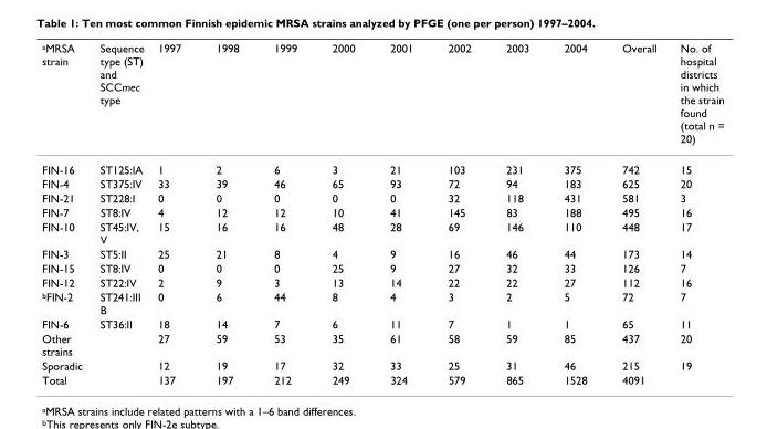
<table><thead><tr><td><sup>a</sup>MRSA strain</td><td>Sequence type (ST) and SCCmec type</td><td>1997</td><td>1998</td><td>1999</td><td>2000</td><td>2001</td><td>2002</td><td>2003</td><td>2004</td><td>Overall</td><td>No. of hospital districts in which the strain found (total n = 20)</td></tr></thead><tbody><tr><td>FIN-16</td><td>ST125:IA</td><td>1</td><td>2</td><td>6</td><td>3</td><td>21</td><td>103</td><td>231</td><td>375</td><td>742</td><td>15</td></tr><tr><td>FIN-4</td><td>ST375:IV</td><td>33</td><td>39</td><td>46</td><td>65</td><td>93</td><td>72</td><td>94</td><td>183</td><td>625</td><td>20</td></tr><tr><td>FIN-21</td><td>ST228:I</td><td>0</td><td>0</td><td>0</td><td>0</td><td>0</td><td>32</td><td>118</td><td>431</td><td>581</td><td>3</td></tr><tr><td>FIN-7</td><td>ST8:IV</td><td>4</td><td>12</td><td>12</td><td>10</td><td>41</td><td>145</td><td>83</td><td>188</td><td>495</td><td>16</td></tr><tr><td>FIN-10</td><td>ST45:IV, V</td><td>15</td><td>16</td><td>16</td><td>48</td><td>28</td><td>69</td><td>146</td><td>110</td><td>448</td><td>17</td></tr><tr><td>FIN-3</td><td>ST5:II</td><td>25</td><td>21</td><td>8</td><td>4</td><td>9</td><td>16</td><td>46</td><td>44</td><td>173</td><td>14</td></tr><tr><td>FIN-15</td><td>ST8:IV</td><td>0</td><td>0</td><td>0</td><td>25</td><td>9</td><td>27</td><td>32</td><td>33</td><td>126</td><td>7</td></tr><tr><td>FIN-12</td><td>ST22:IV</td><td>2</td><td>9</td><td>3</td><td>13</td><td>14</td><td>22</td><td>22</td><td>27</td><td>112</td><td>16</td></tr><tr><td><sup>b</sup>FIN-2</td><td>ST241:III B</td><td>0</td><td>6</td><td>44</td><td>8</td><td>4</td><td>3</td><td>2</td><td>5</td><td>72</td><td>7</td></tr><tr><td>FIN-6</td><td>ST36:II</td><td>18</td><td>14</td><td>7</td><td>6</td><td>11</td><td>7</td><td>1</td><td>1</td><td>65</td><td>11</td></tr><tr><td>Other strains</td><td></td><td>27</td><td>59</td><td>53</td><td>35</td><td>61</td><td>58</td><td>59</td><td>85</td><td>437</td><td>20</td></tr><tr><td>Sporadic</td><td></td><td>12</td><td>19</td><td>17</td><td>32</td><td>33</td><td>25</td><td>31</td><td>46</td><td>215</td><td>19</td></tr><tr><td>Total</td><td></td><td>137</td><td>197</td><td>212</td><td>249</td><td>324</td><td>579</td><td>865</td><td>1528</td><td>4091</td><td></td></tr></tbody></table>